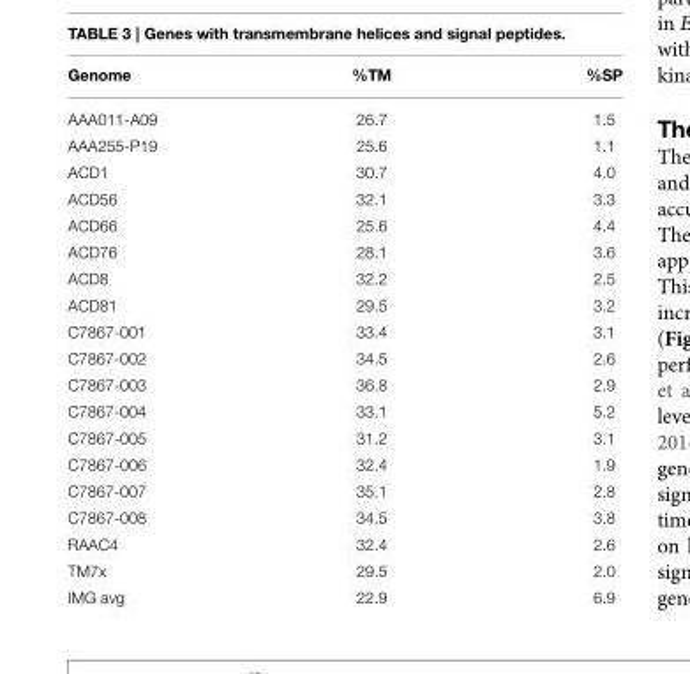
<table><thead><tr><td>Genome</td><td>%TM</td><td>%SP</td></tr></thead><tbody><tr><td>AAA011-A09</td><td>26.7</td><td>1.5</td></tr><tr><td>AAA255-P19</td><td>25.6</td><td>1.1</td></tr><tr><td>ACD1</td><td>30.7</td><td>4.0</td></tr><tr><td>ACD56</td><td>32.1</td><td>3.3</td></tr><tr><td>ACD66</td><td>25.6</td><td>4.4</td></tr><tr><td>ACD76</td><td>28.1</td><td>3.6</td></tr><tr><td>ACD8</td><td>32.2</td><td>2.5</td></tr><tr><td>ACD81</td><td>29.5</td><td>3.2</td></tr><tr><td>C7867-001</td><td>33.4</td><td>3.1</td></tr><tr><td>C7867-002</td><td>34.5</td><td>2.6</td></tr><tr><td>C7867-003</td><td>36.8</td><td>2.9</td></tr><tr><td>C7867-004</td><td>33.1</td><td>5.2</td></tr><tr><td>C7867-005</td><td>31.2</td><td>3.1</td></tr><tr><td>C7867-006</td><td>32.4</td><td>1.9</td></tr><tr><td>C7867-007</td><td>35.1</td><td>2.8</td></tr><tr><td>C7867-008</td><td>34.5</td><td>3.8</td></tr><tr><td>RAAC4</td><td>32.4</td><td>2.6</td></tr><tr><td>TM7x</td><td>29.5</td><td>2.0</td></tr><tr><td>IMG avg</td><td>22.9</td><td>6.9</td></tr></tbody></table>